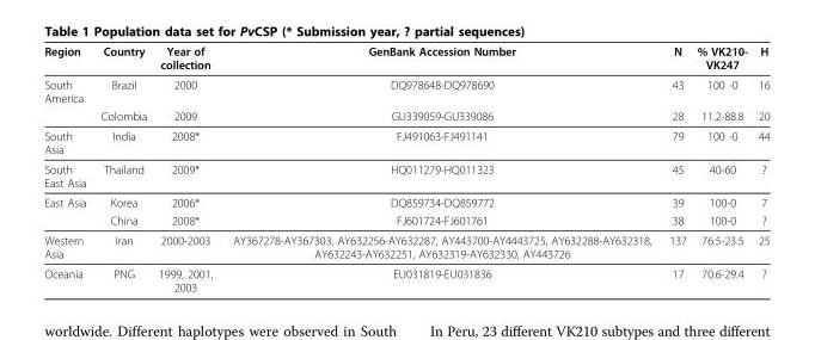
<table><thead><tr><td>Region</td><td>Country</td><td>Year of collection</td><td>GenBank Accession Number</td><td>N</td><td>% VK210- VK247</td><td>H</td></tr></thead><tbody><tr><td rowspan="2">South America</td><td>Brazil</td><td>2000</td><td>DQ978648-DQ978690</td><td>43</td><td>100 -0</td><td>16</td></tr><tr><td>Colombia</td><td>2009</td><td>GU339059-GU339086</td><td>28</td><td>11.2-88.8</td><td>20</td></tr><tr><td>South Asia</td><td>India</td><td>2008*</td><td>FJ491063-FJ491141</td><td>79</td><td>100 -0</td><td>44</td></tr><tr><td>South East Asia</td><td>Thailand</td><td>2009*</td><td>HQ011279-HQ011323</td><td>45</td><td>40-60</td><td>?</td></tr><tr><td rowspan="2">East Asia</td><td>Korea</td><td>2006*</td><td>DQ859734-DQ859772</td><td>39</td><td>100-0</td><td>7</td></tr><tr><td>China</td><td>2008*</td><td>FJ601724-FJ601761</td><td>38</td><td>100-0</td><td>?</td></tr><tr><td>Western Asia</td><td>Iran</td><td>2000-2003</td><td>AY367278-AY367303, AY632256-AY632287, AY443700-AY4443725, AY632288-AY632318, AY632243-AY632251, AY632319-AY632330, AY443726</td><td>137</td><td>76.5-23.5</td><td>25</td></tr><tr><td>Oceania</td><td>PNG</td><td>1999, 2001, 2003</td><td>EU031819-EU031836</td><td>17</td><td>70.6-29.4</td><td>?</td></tr></tbody></table>